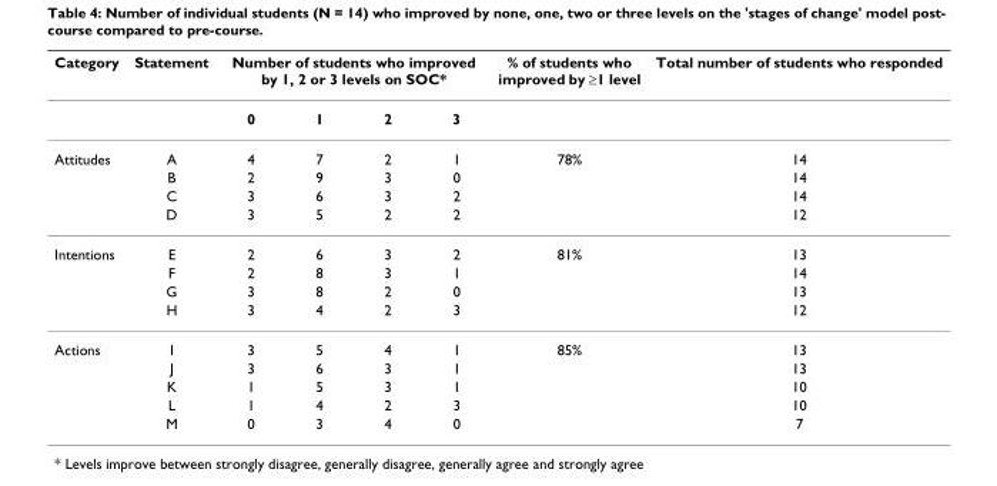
<table><thead><tr><td rowspan="2">Category</td><td rowspan="2">Statement</td><td colspan="4">Number of students who improved by 1, 2 or 3 levels on SOC*</td><td rowspan="2">% of students who improved by ≥1 level</td><td rowspan="2">Total number of students who responded</td></tr><tr><td>0</td><td>1</td><td>2</td><td>3</td></tr></thead><tbody><tr><td rowspan="4">Attitudes</td><td>A</td><td>4</td><td>7</td><td>2</td><td>1</td><td>78%</td><td>14</td></tr><tr><td>B</td><td>2</td><td>9</td><td>3</td><td>0</td><td></td><td>14</td></tr><tr><td>C</td><td>3</td><td>6</td><td>3</td><td>2</td><td></td><td>14</td></tr><tr><td>D</td><td>3</td><td>5</td><td>2</td><td>2</td><td></td><td>12</td></tr><tr><td rowspan="4">Intentions</td><td>E</td><td>2</td><td>6</td><td>3</td><td>2</td><td>81%</td><td>13</td></tr><tr><td>F</td><td>2</td><td>8</td><td>3</td><td>1</td><td></td><td>14</td></tr><tr><td>G</td><td>3</td><td>8</td><td>2</td><td>0</td><td></td><td>13</td></tr><tr><td>H</td><td>3</td><td>4</td><td>2</td><td>3</td><td></td><td>12</td></tr><tr><td rowspan="5">Actions</td><td>I</td><td>3</td><td>5</td><td>4</td><td>1</td><td>85%</td><td>13</td></tr><tr><td>J</td><td>3</td><td>6</td><td>3</td><td>1</td><td></td><td>13</td></tr><tr><td>K</td><td>1</td><td>5</td><td>3</td><td>1</td><td></td><td>10</td></tr><tr><td>L</td><td>1</td><td>4</td><td>2</td><td>3</td><td></td><td>10</td></tr><tr><td>M</td><td>0</td><td>3</td><td>4</td><td>0</td><td></td><td>7</td></tr></tbody></table>